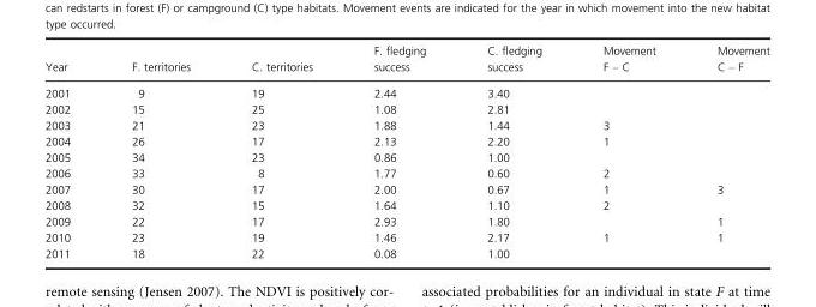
<table><thead><tr><td>Year</td><td>F. territories</td><td>C. territories</td><td>F. fledging success</td><td>C. fledging success</td><td>Movement F – C</td><td>Movement C – F</td></tr></thead><tbody><tr><td>2001</td><td>9</td><td>19</td><td>2.44</td><td>3.40</td><td></td><td></td></tr><tr><td>2002</td><td>15</td><td>25</td><td>1.08</td><td>2.81</td><td></td><td></td></tr><tr><td>2003</td><td>21</td><td>23</td><td>1.88</td><td>1.44</td><td>3</td><td></td></tr><tr><td>2004</td><td>26</td><td>17</td><td>2.13</td><td>2.20</td><td>1</td><td></td></tr><tr><td>2005</td><td>34</td><td>23</td><td>0.86</td><td>1.00</td><td></td><td></td></tr><tr><td>2006</td><td>33</td><td>8</td><td>1.77</td><td>0.60</td><td>2</td><td></td></tr><tr><td>2007</td><td>30</td><td>17</td><td>2.00</td><td>0.67</td><td>1</td><td>3</td></tr><tr><td>2008</td><td>32</td><td>15</td><td>1.64</td><td>1.10</td><td>2</td><td></td></tr><tr><td>2009</td><td>22</td><td>17</td><td>2.93</td><td>1.80</td><td></td><td>1</td></tr><tr><td>2010</td><td>23</td><td>19</td><td>1.46</td><td>2.17</td><td>1</td><td>1</td></tr><tr><td>2011</td><td>18</td><td>22</td><td>0.08</td><td>1.00</td><td></td><td></td></tr></tbody></table>